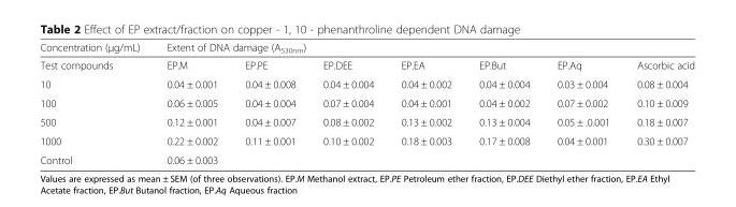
<table><thead><tr><td rowspan="2">Concentration (μg/mL) Test compounds</td><td colspan="7">Extent of DNA damage (A<sub>530nm</sub>)</td></tr><tr><td>EP.M</td><td>EP.PE</td><td>EP.DEE</td><td>EP.EA</td><td>EP.But</td><td>EP.Aq</td><td>Ascorbic acid</td></tr></thead><tbody><tr><td>10</td><td>0.04 ± 0.001</td><td>0.04 ± 0.008</td><td>0.04 ± 0.004</td><td>0.04 ± 0.002</td><td>0.04 ± 0.004</td><td>0.03 ± 0.004</td><td>0.08 ± 0.004</td></tr><tr><td>100</td><td>0.06 ± 0.005</td><td>0.04 ± 0.004</td><td>0.07 ± 0.004</td><td>0.04 ± 0.001</td><td>0.04 ± 0.002</td><td>0.07 ± 0.002</td><td>0.10 ± 0.009</td></tr><tr><td>500</td><td>0.12 ± 0.001</td><td>0.04 ± 0.007</td><td>0.08 ± 0.002</td><td>0.13 ± 0.002</td><td>0.13 ± 0.004</td><td>0.05 ± .0.001</td><td>0.18 ± 0.007</td></tr><tr><td>1000</td><td>0.22 ± 0.002</td><td>0.11 ± 0.001</td><td>0.10 ± 0.002</td><td>0.18 ± 0.003</td><td>0.17 ± 0.008</td><td>0.04 ± 0.001</td><td>0.30 ± 0.007</td></tr><tr><td>Control</td><td colspan="7">0.06 ± 0.003</td></tr></tbody></table>